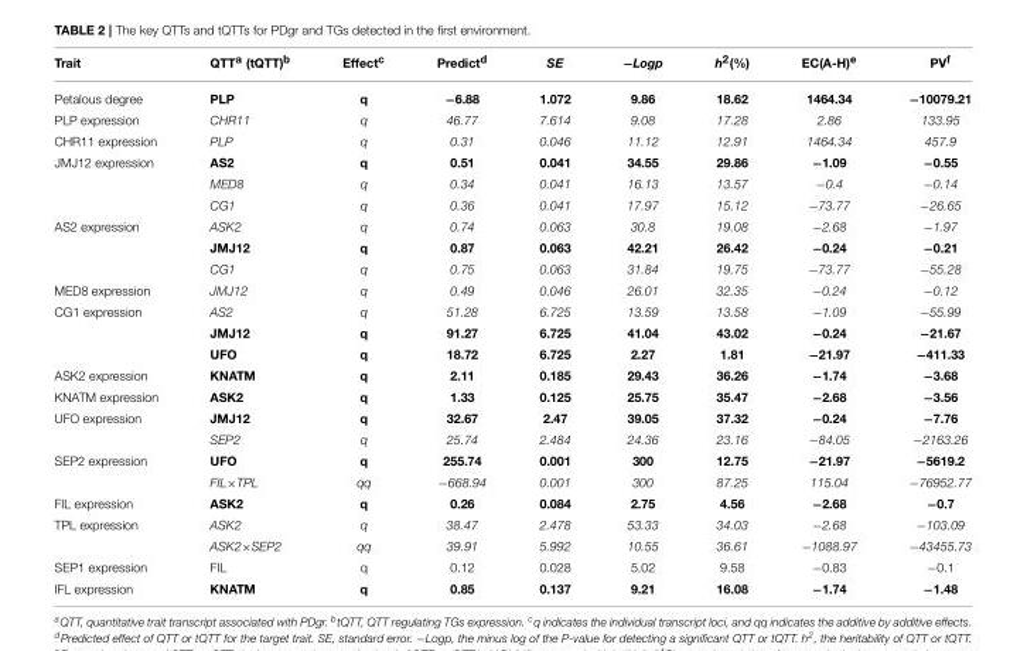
<table><thead><tr><td>Trait</td><td>QTT<sup>a</sup> (tQTT)<sup>b</sup></td><td>Effect<sup>c</sup></td><td>Predict<sup>d</sup></td><td>SE</td><td>−Logp</td><td>h<sup>2</sup>(%)</td><td>EC(A-H)<sup>e</sup></td><td>PV<sup>f</sup></td></tr></thead><tbody><tr><td>Petalous degree</td><td>PLP</td><td>q</td><td>−6.88</td><td>1.072</td><td>9.86</td><td>18.62</td><td>1464.34</td><td>−10079.21</td></tr><tr><td>PLP expression</td><td>CHR11</td><td>q</td><td>46.77</td><td>7.614</td><td>9.08</td><td>17.28</td><td>2.86</td><td>133.95</td></tr><tr><td>CHR11 expression</td><td>PLP</td><td>q</td><td>0.31</td><td>0.046</td><td>11.12</td><td>12.91</td><td>1464.34</td><td>457.9</td></tr><tr><td rowspan="3">JMJ12 expression</td><td>AS2</td><td>q</td><td>0.51</td><td>0.041</td><td>34.55</td><td>29.86</td><td>−1.09</td><td>−0.55</td></tr><tr><td>MED8</td><td>q</td><td>0.34</td><td>0.041</td><td>16.13</td><td>13.57</td><td>−0.4</td><td>−0.14</td></tr><tr><td>CG1</td><td>q</td><td>0.36</td><td>0.041</td><td>17.97</td><td>15.12</td><td>−73.77</td><td>−26.65</td></tr><tr><td rowspan="3">AS2 expression</td><td>ASK2</td><td>q</td><td>0.74</td><td>0.063</td><td>30.8</td><td>19.08</td><td>−2.68</td><td>−1.97</td></tr><tr><td>JMJ12</td><td>q</td><td>0.87</td><td>0.063</td><td>42.21</td><td>26.42</td><td>−0.24</td><td>−0.21</td></tr><tr><td>CG1</td><td>q</td><td>0.75</td><td>0.063</td><td>31.84</td><td>19.75</td><td>−73.77</td><td>−55.28</td></tr><tr><td>MED8 expression</td><td>JMJ12</td><td>q</td><td>0.49</td><td>0.046</td><td>26.01</td><td>32.35</td><td>−0.24</td><td>−0.12</td></tr><tr><td rowspan="3">CG1 expression</td><td>AS2</td><td>q</td><td>51.28</td><td>6.725</td><td>13.59</td><td>13.58</td><td>−1.09</td><td>−55.99</td></tr><tr><td>JMJ12</td><td>q</td><td>91.27</td><td>6.725</td><td>41.04</td><td>43.02</td><td>−0.24</td><td>−21.67</td></tr><tr><td>UFO</td><td>q</td><td>18.72</td><td>6.725</td><td>2.27</td><td>1.81</td><td>−21.97</td><td>−411.33</td></tr><tr><td>ASK2 expression</td><td>KNATM</td><td>q</td><td>2.11</td><td>0.185</td><td>29.43</td><td>36.26</td><td>−1.74</td><td>−3.68</td></tr><tr><td>KNATM expression</td><td>ASK2</td><td>q</td><td>1.33</td><td>0.125</td><td>25.75</td><td>35.47</td><td>−2.68</td><td>−3.56</td></tr><tr><td rowspan="2">UFO expression</td><td>JMJ12</td><td>q</td><td>32.67</td><td>2.47</td><td>39.05</td><td>37.32</td><td>−0.24</td><td>−7.76</td></tr><tr><td>SEP2</td><td>q</td><td>25.74</td><td>2.484</td><td>24.36</td><td>23.16</td><td>−84.05</td><td>−2163.26</td></tr><tr><td rowspan="2">SEP2 expression</td><td>UFO</td><td>q</td><td>255.74</td><td>0.001</td><td>300</td><td>12.75</td><td>−21.97</td><td>−5619.2</td></tr><tr><td>FIL×TPL</td><td>qq</td><td>−668.94</td><td>0.001</td><td>300</td><td>87.25</td><td>115.04</td><td>−76952.77</td></tr><tr><td>FIL expression</td><td>ASK2</td><td>q</td><td>0.26</td><td>0.084</td><td>2.75</td><td>4.56</td><td>−2.68</td><td>−0.7</td></tr><tr><td rowspan="2">TPL expression</td><td>ASK2</td><td>q</td><td>38.47</td><td>2.478</td><td>53.33</td><td>34.03</td><td>−2.68</td><td>−103.09</td></tr><tr><td>ASK2×SEP2</td><td>qq</td><td>39.91</td><td>5.992</td><td>10.55</td><td>36.61</td><td>−1088.97</td><td>−43455.73</td></tr><tr><td>SEP1 expression</td><td>FIL</td><td>q</td><td>0.12</td><td>0.028</td><td>5.02</td><td>9.58</td><td>−0.83</td><td>−0.1</td></tr><tr><td>IFL expression</td><td>KNATM</td><td>q</td><td>0.85</td><td>0.137</td><td>9.21</td><td>16.08</td><td>−1.74</td><td>−1.48</td></tr></tbody></table>